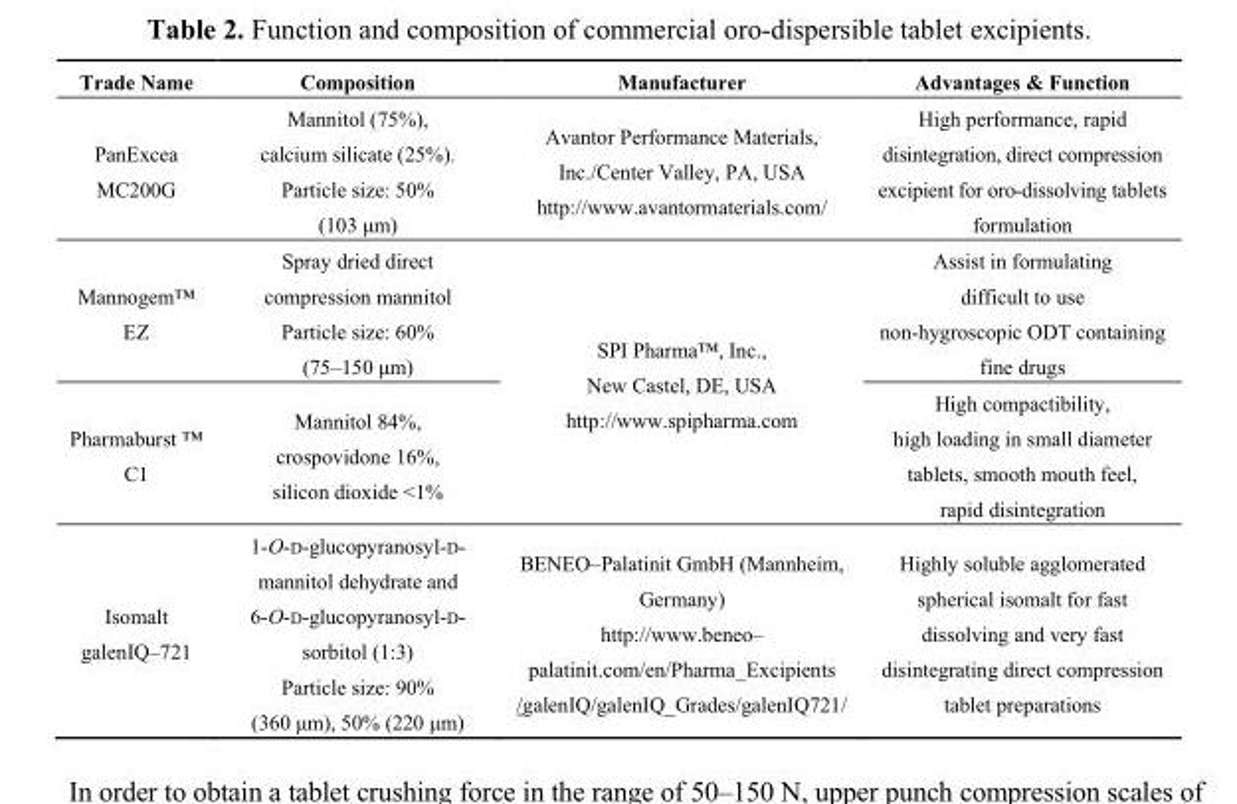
<table><thead><tr><td>Trade Name</td><td>Composition</td><td>Manufacturer</td><td>Advantages &amp; Function</td></tr></thead><tbody><tr><td>PanExcea MC200G</td><td>Mannitol (75%), calcium silicate (25%). Particle size: 50% (103 μm)</td><td>Avantor Performance Materials, Inc./Center Valley, PA, USA http://www.avantormaterials.com/</td><td>High performance, rapid disintegration, direct compression excipient for oro-dissolving tablets formulation</td></tr><tr><td>Mannogem™ EZ</td><td>Spray dried direct compression mannitol Particle size: 60% (75–150 μm)</td><td rowspan="2">SPI Pharma™, Inc., New Castel, DE, USA http://www.spipharma.com</td><td>Assist in formulating difficult to use non-hygroscopic ODT containing fine drugs</td></tr><tr><td>Pharmaburst ™ C1</td><td>Mannitol 84%, crospovidone 16%, silicon dioxide &lt;1%</td><td>High compactibility, high loading in small diameter tablets, smooth mouth feel, rapid disintegration</td></tr><tr><td>Isomalt galenIQ–721</td><td>1-O-D-glucopyranosyl-D- mannitol dehydrate and 6-O-D-glucopyranosyl-D- sorbitol (1:3) Particle size: 90% (360 μm), 50% (220 μm)</td><td>BENEO–Palatinit GmbH (Mannheim, Germany) http://www.beneo– palatinit.com/en/Pharma_Excipients /galenIQ/galenIQ_Grades/galenIQ721/</td><td>Highly soluble agglomerated spherical isomalt for fast dissolving and very fast disintegrating direct compression tablet preparations</td></tr></tbody></table>